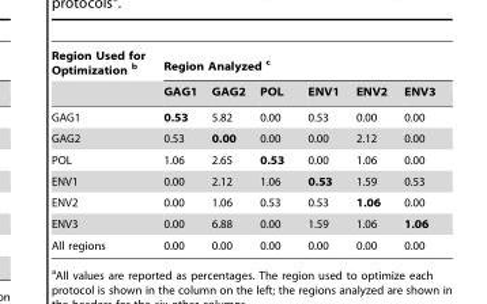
<table><thead><tr><td rowspan="2">Region Used for Optimization b</td><td colspan="6">Region Analyzed c</td></tr><tr><td>GAG1</td><td>GAG2</td><td>POL</td><td>ENV1</td><td>ENV2</td><td>ENV3</td></tr></thead><tbody><tr><td>GAG1</td><td>0.53</td><td>5.82</td><td>0.00</td><td>0.53</td><td>0.00</td><td>0.00</td></tr><tr><td>GAG2</td><td>0.53</td><td>0.00</td><td>0.00</td><td>0.00</td><td>2.12</td><td>0.00</td></tr><tr><td>POL</td><td>1.06</td><td>2.65</td><td>0.53</td><td>0.00</td><td>1.06</td><td>0.00</td></tr><tr><td>ENV1</td><td>0.00</td><td>2.12</td><td>1.06</td><td>0.53</td><td>1.59</td><td>0.53</td></tr><tr><td>ENV2</td><td>0.00</td><td>1.06</td><td>0.53</td><td>0.53</td><td>1.06</td><td>0.00</td></tr><tr><td>ENV3</td><td>0.00</td><td>6.88</td><td>0.00</td><td>1.59</td><td>1.06</td><td>1.06</td></tr><tr><td>All regions</td><td>0.00</td><td>0.00</td><td>0.00</td><td>0.00</td><td>0.00</td><td>0.00</td></tr></tbody></table>